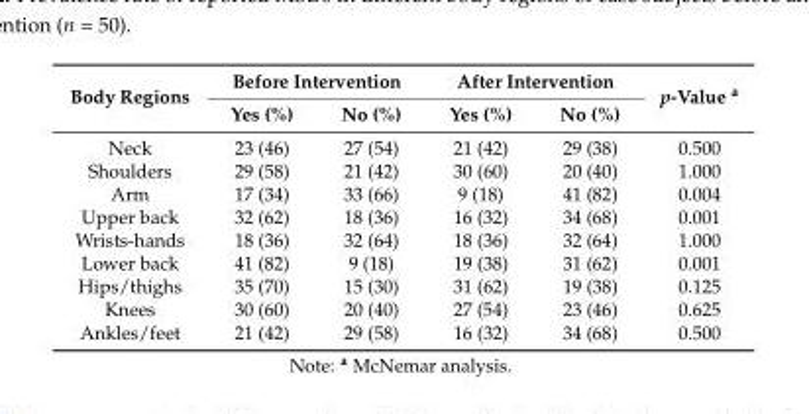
<table><thead><tr><td rowspan="2">Body Regions</td><td colspan="2">Before Intervention</td><td colspan="2">After Intervention</td><td rowspan="2">p-Value <sup>a</sup></td></tr><tr><td>Yes (%)</td><td>No (%)</td><td>Yes (%)</td><td>No (%)</td></tr></thead><tbody><tr><td>Neck</td><td>23 (46)</td><td>27 (54)</td><td>21 (42)</td><td>29 (38)</td><td>0.500</td></tr><tr><td>Shoulders</td><td>29 (58)</td><td>21 (42)</td><td>30 (60)</td><td>20 (40)</td><td>1.000</td></tr><tr><td>Arm</td><td>17 (34)</td><td>33 (66)</td><td>9 (18)</td><td>41 (82)</td><td>0.004</td></tr><tr><td>Upper back</td><td>32 (62)</td><td>18 (36)</td><td>16 (32)</td><td>34 (68)</td><td>0.001</td></tr><tr><td>Wrists-hands</td><td>18 (36)</td><td>32 (64)</td><td>18 (36)</td><td>32 (64)</td><td>1.000</td></tr><tr><td>Lower back</td><td>41 (82)</td><td>9 (18)</td><td>19 (38)</td><td>31 (62)</td><td>0.001</td></tr><tr><td>Hips/thighs</td><td>35 (70)</td><td>15 (30)</td><td>31 (62)</td><td>19 (38)</td><td>0.125</td></tr><tr><td>Knees</td><td>30 (60)</td><td>20 (40)</td><td>27 (54)</td><td>23 (46)</td><td>0.625</td></tr><tr><td>Ankles/feet</td><td>21 (42)</td><td>29 (58)</td><td>16 (32)</td><td>34 (68)</td><td>0.500</td></tr></tbody></table>